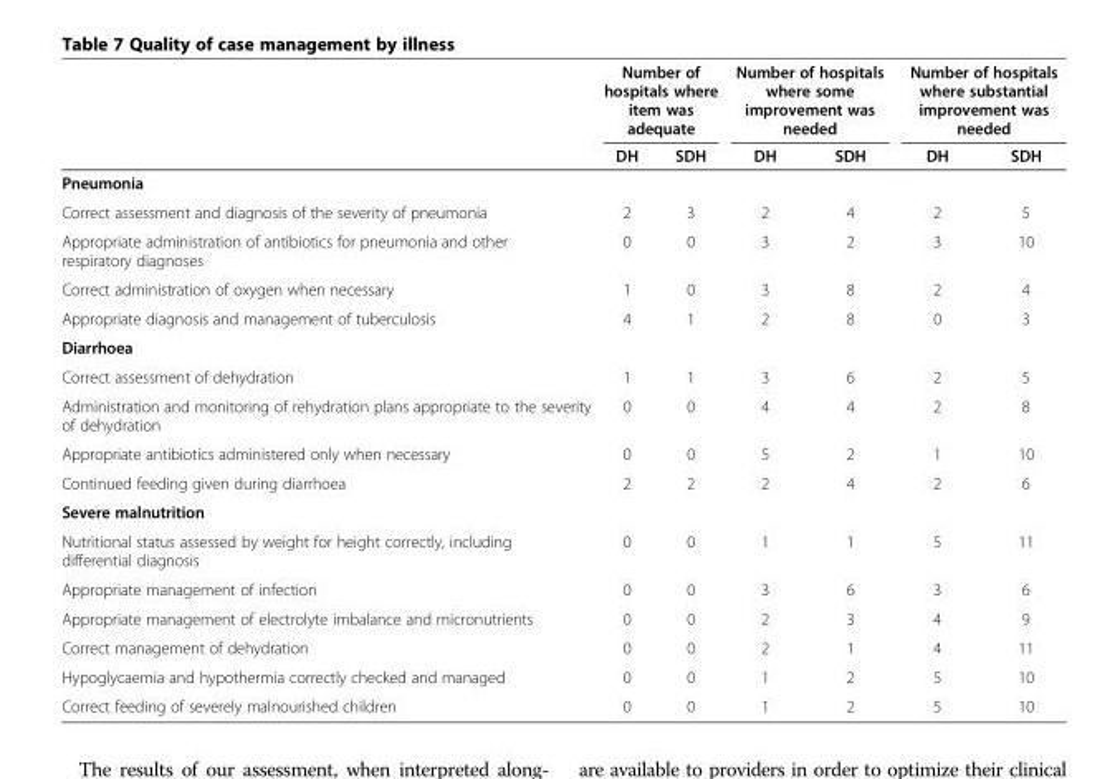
<table><thead><tr><td rowspan="2"></td><td colspan="2">Number of hospitals where item was adequate</td><td colspan="2">Number of hospitals where some improvement was needed</td><td colspan="2">Number of hospitals where substantial improvement was needed</td></tr><tr><td>DH</td><td>SDH</td><td>DH</td><td>SDH</td><td>DH</td><td>SDH</td></tr></thead><tbody><tr><td colspan="7">Pneumonia</td></tr><tr><td>Correct assessment and diagnosis of the severity of pneumonia</td><td>2</td><td>3</td><td>2</td><td>4</td><td>2</td><td>5</td></tr><tr><td>Appropriate administration of antibiotics for pneumonia and other respiratory diagnoses</td><td>0</td><td>0</td><td>3</td><td>2</td><td>3</td><td>10</td></tr><tr><td>Correct administration of oxygen when necessary</td><td>1</td><td>0</td><td>3</td><td>8</td><td>2</td><td>4</td></tr><tr><td>Appropriate diagnosis and management of tuberculosis</td><td>4</td><td>1</td><td>2</td><td>8</td><td>0</td><td>3</td></tr><tr><td colspan="7">Diarrhoea</td></tr><tr><td>Correct assessment of dehydration</td><td>1</td><td>1</td><td>3</td><td>6</td><td>2</td><td>5</td></tr><tr><td>Administration and monitoring of rehydration plans appropriate to the severity of dehydration</td><td>0</td><td>0</td><td>4</td><td>4</td><td>2</td><td>8</td></tr><tr><td>Appropriate antibiotics administered only when necessary</td><td>0</td><td>0</td><td>5</td><td>2</td><td>1</td><td>10</td></tr><tr><td>Continued feeding given during diarrhoea</td><td>2</td><td>2</td><td>2</td><td>4</td><td>2</td><td>6</td></tr><tr><td colspan="7">Severe malnutrition</td></tr><tr><td>Nutritional status assessed by weight for height correctly, including differential diagnosis</td><td>0</td><td>0</td><td>1</td><td>1</td><td>5</td><td>11</td></tr><tr><td>Appropriate management of infection</td><td>0</td><td>0</td><td>3</td><td>6</td><td>3</td><td>6</td></tr><tr><td>Appropriate management of electrolyte imbalance and micronutrients</td><td>0</td><td>0</td><td>2</td><td>3</td><td>4</td><td>9</td></tr><tr><td>Correct management of dehydration</td><td>0</td><td>0</td><td>2</td><td>1</td><td>4</td><td>11</td></tr><tr><td>Hypoglycaemia and hypothermia correctly checked and managed</td><td>0</td><td>0</td><td>1</td><td>2</td><td>5</td><td>10</td></tr><tr><td>Correct feeding of severely malnourished children</td><td>0</td><td>0</td><td>1</td><td>2</td><td>5</td><td>10</td></tr></tbody></table>